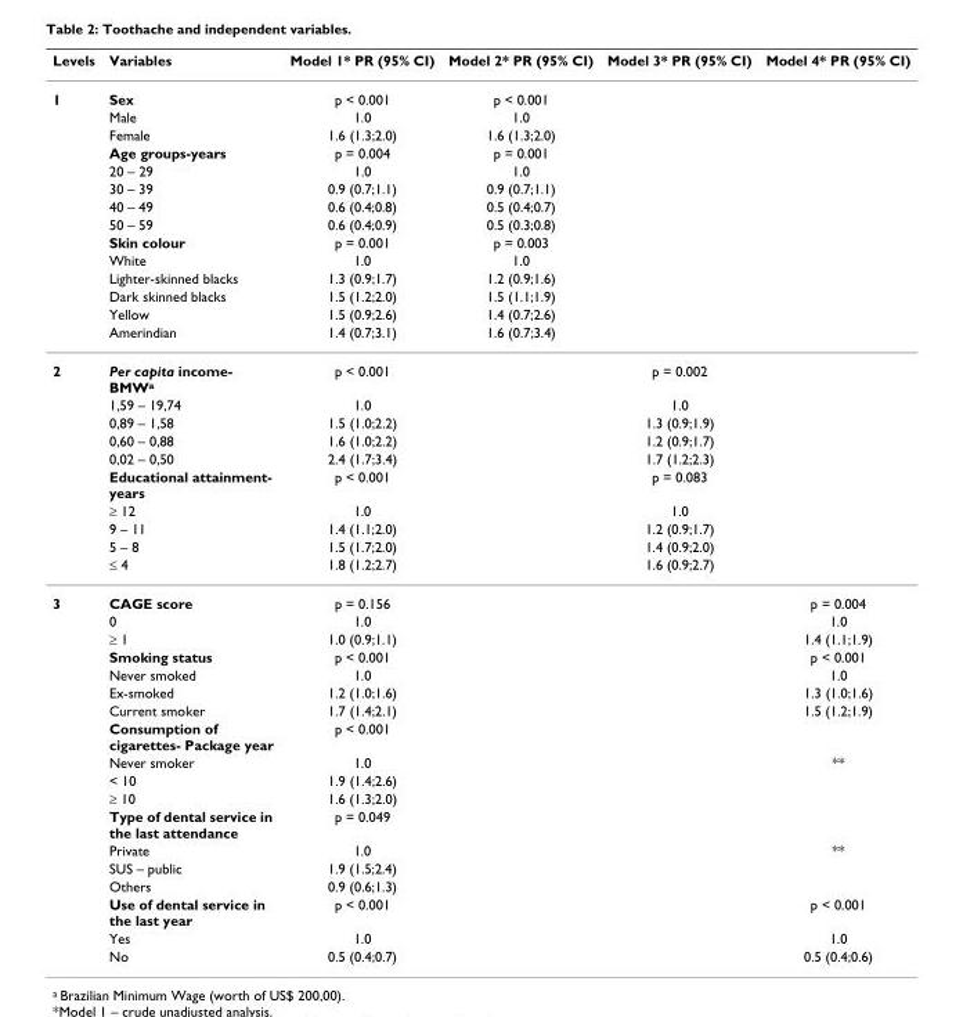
<table><thead><tr><td>Levels</td><td>Variables</td><td>Model 1* PR (95% CI)</td><td>Model 2* PR (95% CI)</td><td>Model 3* PR (95% CI)</td><td>Model 4* PR (95% CI)</td></tr></thead><tbody><tr><td rowspan="14">1</td><td>Sex</td><td>p &lt; 0.001</td><td>p &lt; 0.001</td><td></td><td></td></tr><tr><td>Male</td><td>1.0</td><td>1.0</td><td></td><td></td></tr><tr><td>Female</td><td>1.6 (1.3;2.0)</td><td>1.6 (1.3;2.0)</td><td></td><td></td></tr><tr><td>Age groups-years</td><td>p = 0.004</td><td>p = 0.001</td><td></td><td></td></tr><tr><td>20 – 29</td><td>1.0</td><td>1.0</td><td></td><td></td></tr><tr><td>30 – 39</td><td>0.9 (0.7;1.1)</td><td>0.9 (0.7;1.1)</td><td></td><td></td></tr><tr><td>40 – 49</td><td>0.6 (0.4;0.8)</td><td>0.5 (0.4;0.7)</td><td></td><td></td></tr><tr><td>50 – 59</td><td>0.6 (0.4;0.9)</td><td>0.5 (0.3;0.8)</td><td></td><td></td></tr><tr><td>Skin colour</td><td>p = 0.001</td><td>p = 0.003</td><td></td><td></td></tr><tr><td>White</td><td>1.0</td><td>1.0</td><td></td><td></td></tr><tr><td>Lighter-skinned blacks</td><td>1.3 (0.9;1.7)</td><td>1.2 (0.9;1.6)</td><td></td><td></td></tr><tr><td>Dark skinned blacks</td><td>1.5 (1.2;2.0)</td><td>1.5 (1.1;1.9)</td><td></td><td></td></tr><tr><td>Yellow</td><td>1.5 (0.9;2.6)</td><td>1.4 (0.7;2.6)</td><td></td><td></td></tr><tr><td>Amerindian</td><td>1.4 (0.7;3.1)</td><td>1.6 (0.7;3.4)</td><td></td><td></td></tr><tr><td rowspan="10">2</td><td>Per capita income- BMW<sup>a</sup></td><td>p &lt; 0.001</td><td></td><td>p = 0.002</td><td></td></tr><tr><td>1,59 – 19,74</td><td>1.0</td><td></td><td>1.0</td><td></td></tr><tr><td>0,89 – 1,58</td><td>1.5 (1.0;2.2)</td><td></td><td>1.3 (0.9;1.9)</td><td></td></tr><tr><td>0,60 – 0,88</td><td>1.6 (1.0;2.2)</td><td></td><td>1.2 (0.9;1.7)</td><td></td></tr><tr><td>0,02 – 0,50</td><td>2.4 (1.7;3.4)</td><td></td><td>1.7 (1.2;2.3)</td><td></td></tr><tr><td>Educational attainment- years</td><td>p &lt; 0.001</td><td></td><td>p = 0.083</td><td></td></tr><tr><td>≥ 12</td><td>1.0</td><td></td><td>1.0</td><td></td></tr><tr><td>9 – 11</td><td>1.4 (1.1;2.0)</td><td></td><td>1.2 (0.9;1.7)</td><td></td></tr><tr><td>5 – 8</td><td>1.5 (1.7;2.0)</td><td></td><td>1.4 (0.9;2.0)</td><td></td></tr><tr><td>≤ 4</td><td>1.8 (1.2;2.7)</td><td></td><td>1.6 (0.9;2.7)</td><td></td></tr><tr><td rowspan="18">3</td><td>CAGE score</td><td>p = 0.156</td><td></td><td></td><td>p = 0.004</td></tr><tr><td>0</td><td>1.0</td><td></td><td></td><td>1.0</td></tr><tr><td>≥ 1</td><td>1.0 (0.9;1.1)</td><td></td><td></td><td>1.4 (1.1;1.9)</td></tr><tr><td>Smoking status</td><td>p &lt; 0.001</td><td></td><td></td><td>p &lt; 0.001</td></tr><tr><td>Never smoked</td><td>1.0</td><td></td><td></td><td>1.0</td></tr><tr><td>Ex-smoked</td><td>1.2 (1.0;1.6)</td><td></td><td></td><td>1.3 (1.0;1.6)</td></tr><tr><td>Current smoker</td><td>1.7 (1.4;2.1)</td><td></td><td></td><td>1.5 (1.2;1.9)</td></tr><tr><td>Consumption of cigarettes- Package year</td><td>p &lt; 0.001</td><td></td><td></td><td></td></tr><tr><td>Never smoker</td><td>1.0</td><td></td><td></td><td>**</td></tr><tr><td>&lt; 10</td><td>1.9 (1.4;2.6)</td><td></td><td></td><td></td></tr><tr><td>≥ 10</td><td>1.6 (1.3;2.0)</td><td></td><td></td><td></td></tr><tr><td>Type of dental service in the last attendance</td><td>p = 0.049</td><td></td><td></td><td></td></tr><tr><td>Private</td><td>1.0</td><td></td><td></td><td>**</td></tr><tr><td>SUS – public</td><td>1.9 (1.5;2.4)</td><td></td><td></td><td></td></tr><tr><td>Others</td><td>0.9 (0.6;1.3)</td><td></td><td></td><td></td></tr><tr><td>Use of dental service in the last year</td><td>p &lt; 0.001</td><td></td><td></td><td>p &lt; 0.001</td></tr><tr><td>Yes</td><td>1.0</td><td></td><td></td><td>1.0</td></tr><tr><td>No</td><td>0.5 (0.4;0.7)</td><td></td><td></td><td>0.5 (0.4;0.6)</td></tr></tbody></table>